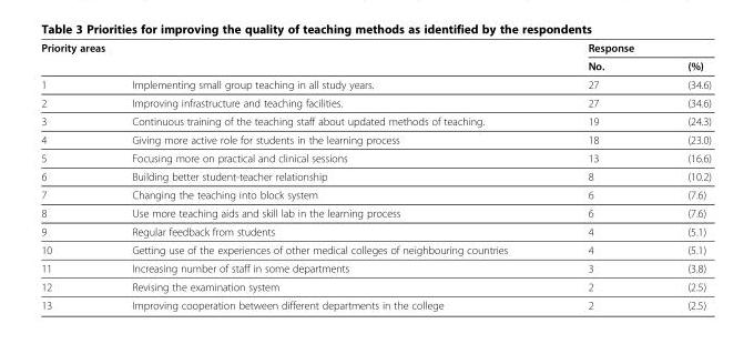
<table><thead><tr><td rowspan="2">Priority areas</td><td rowspan="2"></td><td colspan="2">Response</td></tr><tr><td>No.</td><td>(%)</td></tr></thead><tbody><tr><td>1</td><td>Implementing small group teaching in all study years.</td><td>27</td><td>(34.6)</td></tr><tr><td>2</td><td>Improving infrastructure and teaching facilities.</td><td>27</td><td>(34.6)</td></tr><tr><td>3</td><td>Continuous training of the teaching staff about updated methods of teaching.</td><td>19</td><td>(24.3)</td></tr><tr><td>4</td><td>Giving more active role for students in the learning process</td><td>18</td><td>(23.0)</td></tr><tr><td>5</td><td>Focusing more on practical and clinical sessions</td><td>13</td><td>(16.6)</td></tr><tr><td>6</td><td>Building better student-teacher relationship</td><td>8</td><td>(10.2)</td></tr><tr><td>7</td><td>Changing the teaching into block system</td><td>6</td><td>(7.6)</td></tr><tr><td>8</td><td>Use more teaching aids and skill lab in the learning process</td><td>6</td><td>(7.6)</td></tr><tr><td>9</td><td>Regular feedback from students</td><td>4</td><td>(5.1)</td></tr><tr><td>10</td><td>Getting use of the experiences of other medical colleges of neighbouring countries</td><td>4</td><td>(5.1)</td></tr><tr><td>11</td><td>Increasing number of staff in some departments</td><td>3</td><td>(3.8)</td></tr><tr><td>12</td><td>Revising the examination system</td><td>2</td><td>(2.5)</td></tr><tr><td>13</td><td>Improving cooperation between different departments in the college</td><td>2</td><td>(2.5)</td></tr></tbody></table>